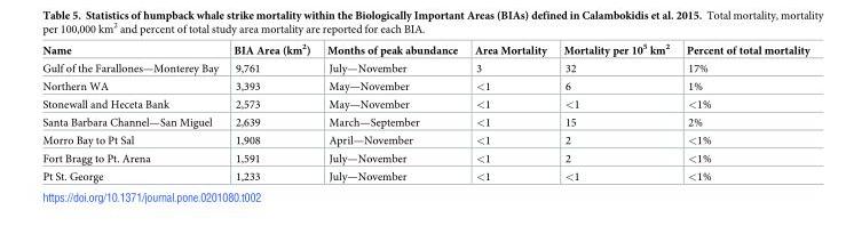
<table><thead><tr><td>Name</td><td>BIA Area (km<sup>2</sup>)</td><td>Months of peak abundance</td><td>Area Mortality</td><td>Mortality per 10<sup>5</sup> km<sup>2</sup></td><td>Percent of total mortality</td></tr></thead><tbody><tr><td>Gulf of the Farallones—Monterey Bay</td><td>9,761</td><td>July—November</td><td>3</td><td>32</td><td>17%</td></tr><tr><td>Northern WA</td><td>3,393</td><td>May—November</td><td>&lt;1</td><td>6</td><td>1%</td></tr><tr><td>Stonewall and Heceta Bank</td><td>2,573</td><td>May—November</td><td>&lt;1</td><td>&lt;1</td><td>&lt;1%</td></tr><tr><td>Santa Barbara Channel—San Miguel</td><td>2,639</td><td>March—September</td><td>&lt;1</td><td>15</td><td>2%</td></tr><tr><td>Morro Bay to Pt Sal</td><td>1,908</td><td>April—November</td><td>&lt;1</td><td>2</td><td>&lt;1%</td></tr><tr><td>Fort Bragg to Pt. Arena</td><td>1,591</td><td>July—November</td><td>&lt;1</td><td>2</td><td>&lt;1%</td></tr><tr><td>Pt St. George</td><td>1,233</td><td>July—November</td><td>&lt;1</td><td>&lt;1</td><td>&lt;1%</td></tr></tbody></table>